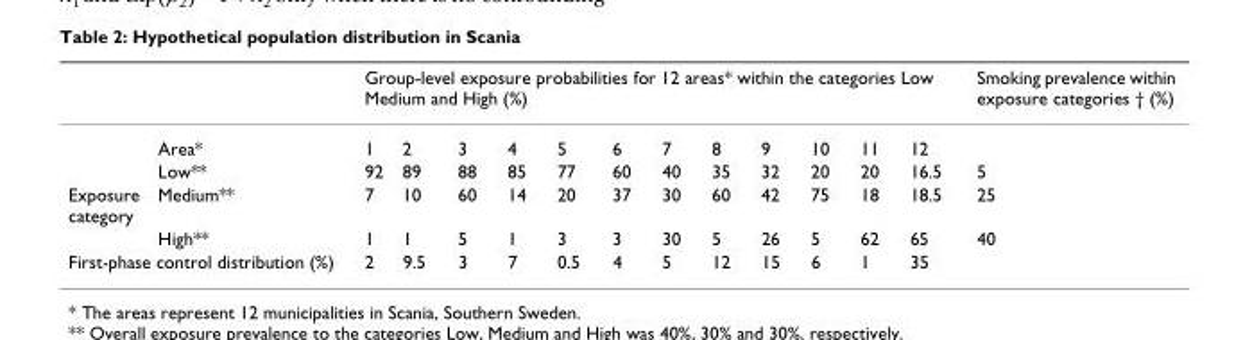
<table><thead><tr><td rowspan="2"></td><td rowspan="2">Area*</td><td colspan="12">Group-level exposure probabilities for 12 areas* within the categories Low Medium and High (%)</td><td rowspan="2">Smoking prevalence within exposure categories † (%)</td></tr><tr><td>1</td><td>2</td><td>3</td><td>4</td><td>5</td><td>6</td><td>7</td><td>8</td><td>9</td><td>10</td><td>11</td><td>12</td></tr></thead><tbody><tr><td></td><td>Low**</td><td>92</td><td>89</td><td>88</td><td>85</td><td>77</td><td>60</td><td>40</td><td>35</td><td>32</td><td>20</td><td>20</td><td>16.5</td><td>5</td></tr><tr><td rowspan="2">Exposure category</td><td>Medium**</td><td>7</td><td>10</td><td>60</td><td>14</td><td>20</td><td>37</td><td>30</td><td>60</td><td>42</td><td>75</td><td>18</td><td>18.5</td><td>25</td></tr><tr><td>High**</td><td>1</td><td>1</td><td>5</td><td>1</td><td>3</td><td>3</td><td>30</td><td>5</td><td>26</td><td>5</td><td>62</td><td>65</td><td>40</td></tr><tr><td colspan="2">First-phase control distribution (%)</td><td>2</td><td>9.5</td><td>3</td><td>7</td><td>0.5</td><td>4</td><td>5</td><td>12</td><td>15</td><td>6</td><td>1</td><td>35</td><td></td></tr></tbody></table>